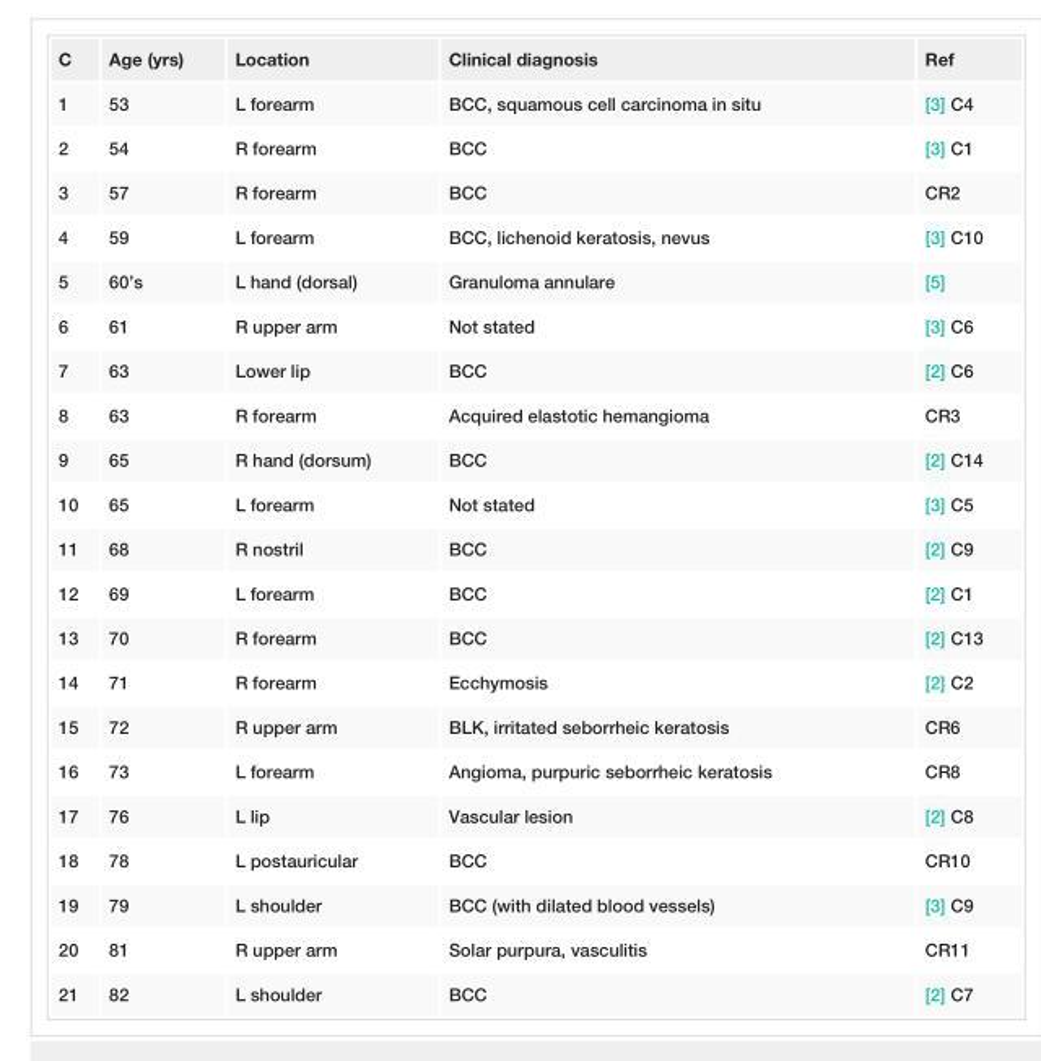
<table><tbody><tr><td>C</td><td>Age (yrs)</td><td>Location</td><td>Clinical diagnosis</td><td>Ref</td></tr><tr><td>1</td><td>53</td><td>L forearm</td><td>BCC, squamous cell carcinoma in situ</td><td>[3] C4</td></tr><tr><td>2</td><td>54</td><td>R forearm</td><td>BCC</td><td>[3] C1</td></tr><tr><td>3</td><td>57</td><td>R forearm</td><td>BCC</td><td>CR2</td></tr><tr><td>4</td><td>59</td><td>L forearm</td><td>BCC, lichenoid keratosis, nevus</td><td>[3] C10</td></tr><tr><td>5</td><td>60’s</td><td>L hand (dorsal)</td><td>Granuloma annulare</td><td>[5]</td></tr><tr><td>6</td><td>61</td><td>R upper arm</td><td>Not stated</td><td>[3] C6</td></tr><tr><td>7</td><td>63</td><td>Lower lip</td><td>BCC</td><td>[2] C6</td></tr><tr><td>8</td><td>63</td><td>R forearm</td><td>Acquired elastotic hemangioma</td><td>CR3</td></tr><tr><td>9</td><td>65</td><td>R hand (dorsum)</td><td>BCC</td><td>[2] C14</td></tr><tr><td>10</td><td>65</td><td>L forearm</td><td>Not stated</td><td>[3] C5</td></tr><tr><td>11</td><td>68</td><td>R nostril</td><td>BCC</td><td>[2] C9</td></tr><tr><td>12</td><td>69</td><td>L forearm</td><td>BCC</td><td>[2] C1</td></tr><tr><td>13</td><td>70</td><td>R forearm</td><td>BCC</td><td>[2] C13</td></tr><tr><td>14</td><td>71</td><td>R forearm</td><td>Ecchymosis</td><td>[2] C2</td></tr><tr><td>15</td><td>72</td><td>R upper arm</td><td>BLK, irritated seborrheic keratosis</td><td>CR6</td></tr><tr><td>16</td><td>73</td><td>L forearm</td><td>Angioma, purpuric seborrheic keratosis</td><td>CR8</td></tr><tr><td>17</td><td>76</td><td>L lip</td><td>Vascular lesion</td><td>[2] C8</td></tr><tr><td>18</td><td>78</td><td>L postauricular</td><td>BCC</td><td>CR10</td></tr><tr><td>19</td><td>79</td><td>L shoulder</td><td>BCC (with dilated blood vessels)</td><td>[3] C9</td></tr><tr><td>20</td><td>81</td><td>R upper arm</td><td>Solar purpura, vasculitis</td><td>CR11</td></tr><tr><td>21</td><td>82</td><td>L shoulder</td><td>BCC</td><td>[2] C7</td></tr></tbody></table>